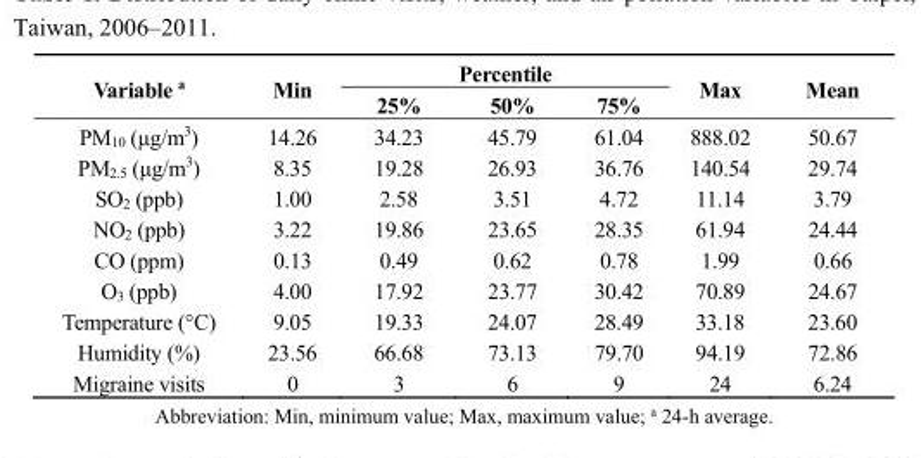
<table><thead><tr><td rowspan="2">Variable <sup>a</sup></td><td rowspan="2">Min</td><td colspan="3">Percentile</td><td rowspan="2">Max</td><td rowspan="2">Mean</td></tr><tr><td>25%</td><td>50%</td><td>75%</td></tr></thead><tbody><tr><td>PM<sub>10</sub> (μg/m<sup>3</sup>)</td><td>14.26</td><td>34.23</td><td>45.79</td><td>61.04</td><td>888.02</td><td>50.67</td></tr><tr><td>PM<sub>2.5</sub> (μg/m<sup>3</sup>)</td><td>8.35</td><td>19.28</td><td>26.93</td><td>36.76</td><td>140.54</td><td>29.74</td></tr><tr><td>SO<sub>2</sub> (ppb)</td><td>1.00</td><td>2.58</td><td>3.51</td><td>4.72</td><td>11.14</td><td>3.79</td></tr><tr><td>NO<sub>2</sub> (ppb)</td><td>3.22</td><td>19.86</td><td>23.65</td><td>28.35</td><td>61.94</td><td>24.44</td></tr><tr><td>CO (ppm)</td><td>0.13</td><td>0.49</td><td>0.62</td><td>0.78</td><td>1.99</td><td>0.66</td></tr><tr><td>O<sub>3</sub> (ppb)</td><td>4.00</td><td>17.92</td><td>23.77</td><td>30.42</td><td>70.89</td><td>24.67</td></tr><tr><td>Temperature (°C)</td><td>9.05</td><td>19.33</td><td>24.07</td><td>28.49</td><td>33.18</td><td>23.60</td></tr><tr><td>Humidity (%)</td><td>23.56</td><td>66.68</td><td>73.13</td><td>79.70</td><td>94.19</td><td>72.86</td></tr><tr><td>Migraine visits</td><td>0</td><td>3</td><td>6</td><td>9</td><td>24</td><td>6.24</td></tr></tbody></table>